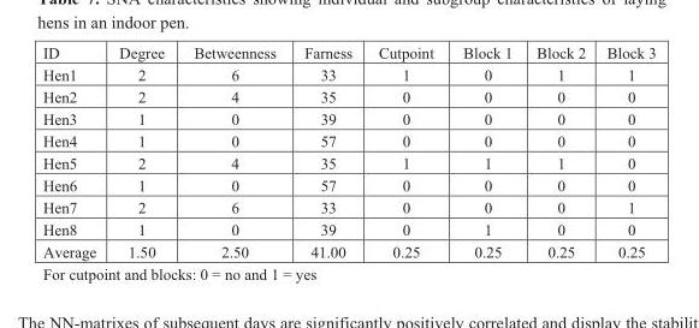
<table><tbody><tr><td>ID</td><td>Degree</td><td>Betweenness</td><td>Farness</td><td>Cutpoint</td><td>Block 1</td><td>Block 2</td><td>Block 3</td></tr><tr><td>Hen1</td><td>2</td><td>6</td><td>33</td><td>1</td><td>0</td><td>1</td><td>1</td></tr><tr><td>Hen2</td><td>2</td><td>4</td><td>35</td><td>0</td><td>0</td><td>0</td><td>0</td></tr><tr><td>Hen3</td><td>1</td><td>0</td><td>39</td><td>0</td><td>0</td><td>0</td><td>0</td></tr><tr><td>Hen4</td><td>1</td><td>0</td><td>57</td><td>0</td><td>0</td><td>0</td><td>0</td></tr><tr><td>Hen5</td><td>2</td><td>4</td><td>35</td><td>1</td><td>1</td><td>1</td><td>0</td></tr><tr><td>Hen6</td><td>1</td><td>0</td><td>57</td><td>0</td><td>0</td><td>0</td><td>0</td></tr><tr><td>Hen7</td><td>2</td><td>6</td><td>33</td><td>0</td><td>0</td><td>0</td><td>1</td></tr><tr><td>Hen8</td><td>1</td><td>0</td><td>39</td><td>0</td><td>1</td><td>0</td><td>0</td></tr><tr><td>Average</td><td>1.50</td><td>2.50</td><td>41.00</td><td>0.25</td><td>0.25</td><td>0.25</td><td>0.25</td></tr><tr><td colspan="4">For cutpoint and blocks: 0 = no and 1 = yes</td><td></td><td></td><td></td><td></td></tr></tbody></table>